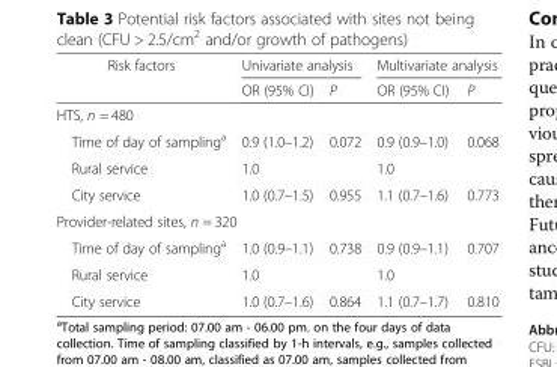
<table><thead><tr><td rowspan="2">Risk factors</td><td colspan="2">Univariate analysis</td><td colspan="2">Multivariate analysis</td></tr><tr><td>OR (95% CI)</td><td>P</td><td>OR (95% CI)</td><td>P</td></tr></thead><tbody><tr><td colspan="5">HTS, n = 480</td></tr><tr><td>Time of day of sampling<sup>a</sup></td><td>0.9 (1.0–1.2)</td><td>0.072</td><td>0.9 (0.9–1.0)</td><td>0.068</td></tr><tr><td>Rural service</td><td>1.0</td><td></td><td>1.0</td><td></td></tr><tr><td>City service</td><td>1.0 (0.7–1.5)</td><td>0.955</td><td>1.1 (0.7–1.6)</td><td>0.773</td></tr><tr><td colspan="5">Provider-related sites, n = 320</td></tr><tr><td>Time of day of sampling<sup>a</sup></td><td>1.0 (0.9–1.1)</td><td>0.738</td><td>0.9 (0.9–1.1)</td><td>0.707</td></tr><tr><td>Rural service</td><td>1.0</td><td></td><td>1.0</td><td></td></tr><tr><td>City service</td><td>1.0 (0.7–1.6)</td><td>0.864</td><td>1.1 (0.7–1.7)</td><td>0.810</td></tr></tbody></table>